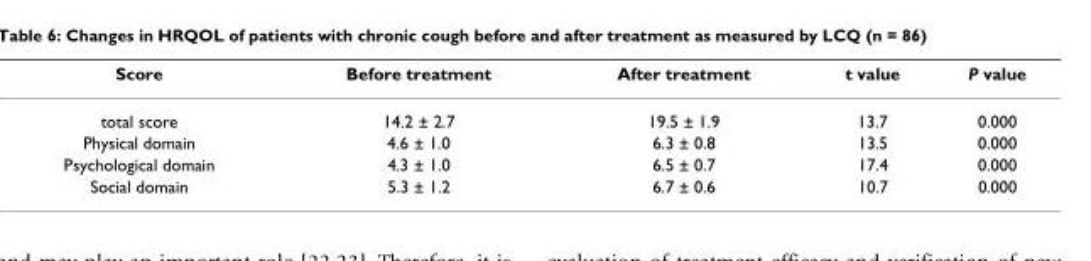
<table><thead><tr><td>Score</td><td>Before treatment</td><td>After treatment</td><td>t value</td><td>P value</td></tr></thead><tbody><tr><td>total score</td><td>14.2 ± 2.7</td><td>19.5 ± 1.9</td><td>13.7</td><td>0.000</td></tr><tr><td>Physical domain</td><td>4.6 ± 1.0</td><td>6.3 ± 0.8</td><td>13.5</td><td>0.000</td></tr><tr><td>Psychological domain</td><td>4.3 ± 1.0</td><td>6.5 ± 0.7</td><td>17.4</td><td>0.000</td></tr><tr><td>Social domain</td><td>5.3 ± 1.2</td><td>6.7 ± 0.6</td><td>10.7</td><td>0.000</td></tr></tbody></table>